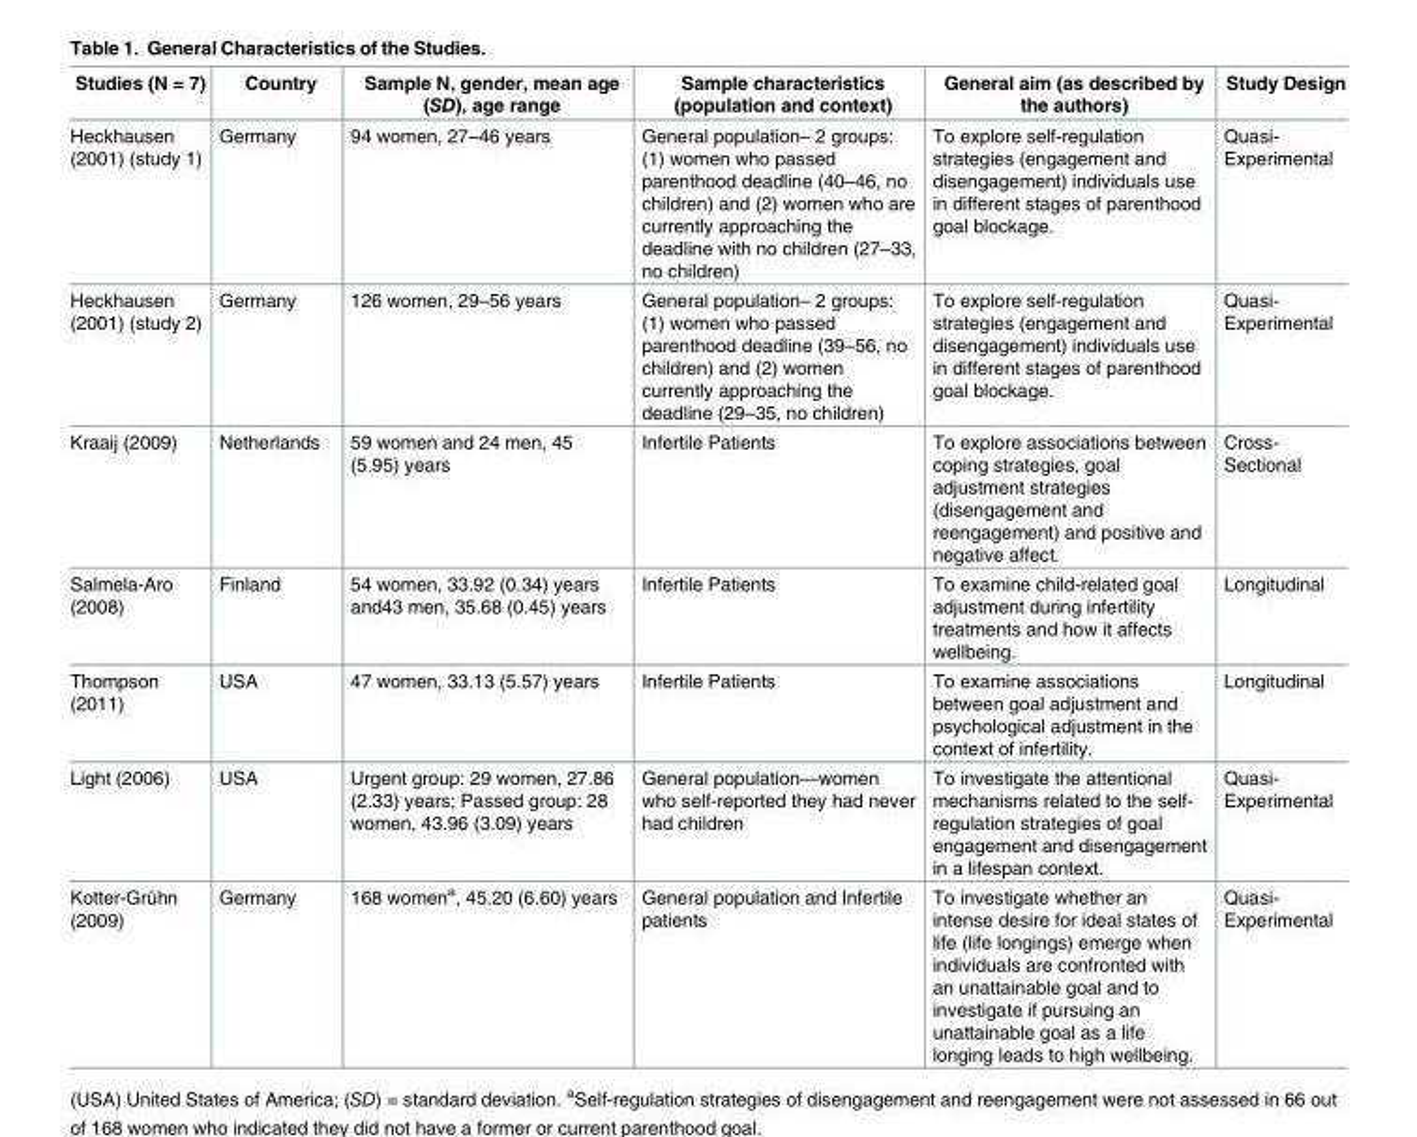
<table><thead><tr><td>Studies (N = 7)</td><td>Country</td><td>Sample N, gender, mean age (SD), age range</td><td>Sample characteristics (population and context)</td><td>General aim (as described by the authors)</td><td>Study Design</td></tr></thead><tbody><tr><td>Heckhausen (2001) (study 1)</td><td>Germany</td><td>94 women, 27–46 years</td><td>General population– 2 groups: (1) women who passed parenthood deadline (40–46, no children) and (2) women who are currently approaching the deadline with no children (27–33, no children)</td><td>To explore self-regulation strategies (engagement and disengagement) individuals use in different stages of parenthood goal blockage.</td><td>Quasi- Experimental</td></tr><tr><td>Heckhausen (2001) (study 2)</td><td>Germany</td><td>126 women, 29–56 years</td><td>General population– 2 groups: (1) women who passed parenthood deadline (39–56, no children) and (2) women currently approaching the deadline (29–35, no children)</td><td>To explore self-regulation strategies (engagement and disengagement) individuals use in different stages of parenthood goal blockage.</td><td>Quasi- Experimental</td></tr><tr><td>Kraaij (2009)</td><td>Netherlands</td><td>59 women and 24 men, 45 (5.95) years</td><td>Infertile Patients</td><td>To explore associations between coping strategies, goal adjustment strategies (disengagement and reengagement) and positive and negative affect.</td><td>Cross- Sectional</td></tr><tr><td>Salmela-Aro (2008)</td><td>Finland</td><td>54 women, 33.92 (0.34) years and43 men, 35.68 (0.45) years</td><td>Infertile Patients</td><td>To examine child-related goal adjustment during infertility treatments and how it affects wellbeing.</td><td>Longitudinal</td></tr><tr><td>Thompson (2011)</td><td>USA</td><td>47 women, 33.13 (5.57) years</td><td>Infertile Patients</td><td>To examine associations between goal adjustment and psychological adjustment in the context of infertility.</td><td>Longitudinal</td></tr><tr><td>Light (2006)</td><td>USA</td><td>Urgent group: 29 women, 27.86 (2.33) years; Passed group: 28 women, 43.96 (3.09) years</td><td>General population—women who self-reported they had never had children</td><td>To investigate the attentional mechanisms related to the self- regulation strategies of goal engagement and disengagement in a lifespan context.</td><td>Quasi- Experimental</td></tr><tr><td>Kotter-Grühn (2009)</td><td>Germany</td><td>168 women<sup>a</sup>, 45.20 (6.60) years</td><td>General population and Infertile patients</td><td>To investigate whether an intense desire for ideal states of life (life longings) emerge when individuals are confronted with an unattainable goal and to investigate if pursuing an unattainable goal as a life longing leads to high wellbeing.</td><td>Quasi- Experimental</td></tr></tbody></table>